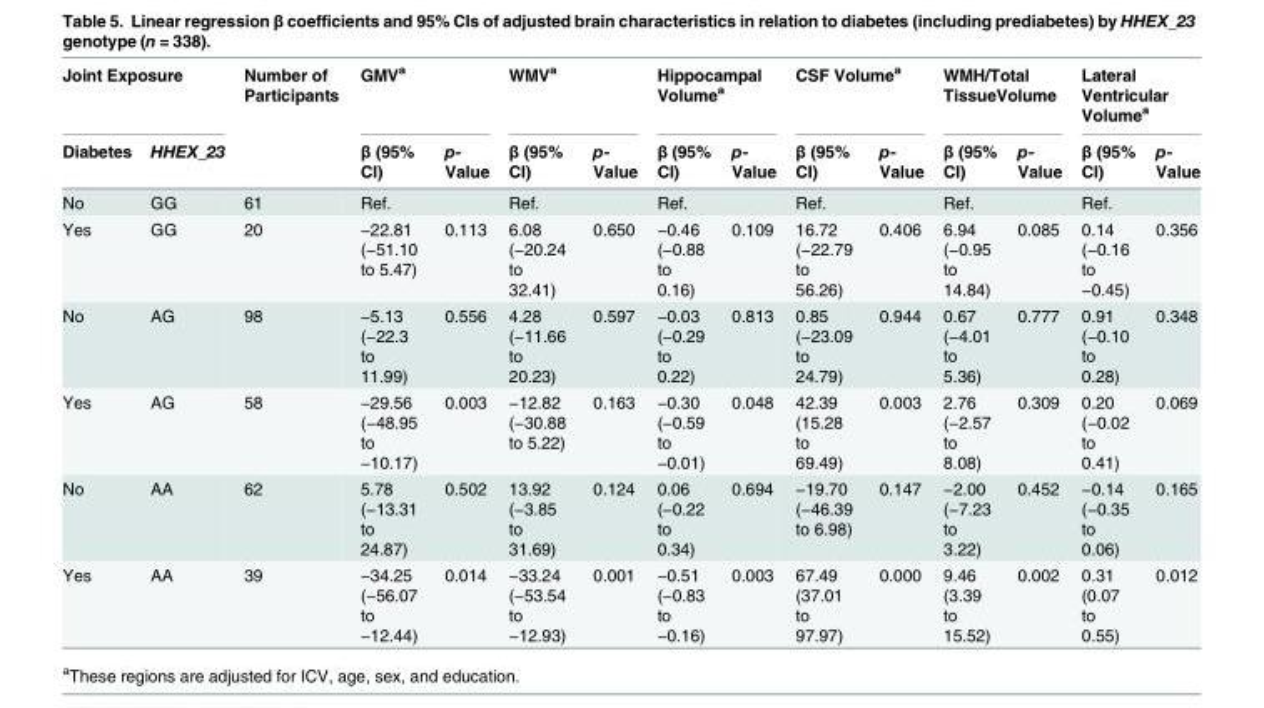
<table><thead><tr><td colspan="2">Joint Exposure</td><td rowspan="2">Number of Participants</td><td colspan="2">GMV<sup>a</sup></td><td colspan="2">WMV<sup>a</sup></td><td colspan="2">Hippocampal Volume<sup>a</sup></td><td colspan="2">CSF Volume<sup>a</sup></td><td colspan="2">WMH/Total TissueVolume</td><td colspan="2">Lateral Ventricular Volume<sup>a</sup></td></tr><tr><td>Diabetes</td><td>HHEX_23</td><td>β (95% CI)</td><td>p- Value</td><td>β (95% CI)</td><td>p- Value</td><td>β (95% CI)</td><td>p- Value</td><td>β (95% CI)</td><td>p- Value</td><td>β (95% CI)</td><td>p- Value</td><td>β (95% CI)</td><td>p- Value</td></tr></thead><tbody><tr><td>No</td><td>GG</td><td>61</td><td>Ref.</td><td></td><td>Ref.</td><td></td><td>Ref.</td><td></td><td>Ref.</td><td></td><td>Ref.</td><td></td><td>Ref.</td><td></td></tr><tr><td>Yes</td><td>GG</td><td>20</td><td>−22.81 (−51.10 to 5.47)</td><td>0.113</td><td>6.08 (−20.24 to 32.41)</td><td>0.650</td><td>−0.46 (−0.88 to 0.16)</td><td>0.109</td><td>16.72 (−22.79 to 56.26)</td><td>0.406</td><td>6.94 (−0.95 to 14.84)</td><td>0.085</td><td>0.14 (−0.16 to −0.45)</td><td>0.356</td></tr><tr><td>No</td><td>AG</td><td>98</td><td>−5.13 (−22.3 to 11.99)</td><td>0.556</td><td>4.28 (−11.66 to 20.23)</td><td>0.597</td><td>−0.03 (−0.29 to 0.22)</td><td>0.813</td><td>0.85 (−23.09 to 24.79)</td><td>0.944</td><td>0.67 (−4.01 to 5.36)</td><td>0.777</td><td>0.91 (−0.10 to 0.28)</td><td>0.348</td></tr><tr><td>Yes</td><td>AG</td><td>58</td><td>−29.56 (−48.95 to −10.17)</td><td>0.003</td><td>−12.82 (−30.88 to 5.22)</td><td>0.163</td><td>−0.30 (−0.59 to −0.01)</td><td>0.048</td><td>42.39 (15.28 to 69.49)</td><td>0.003</td><td>2.76 (−2.57 to 8.08)</td><td>0.309</td><td>0.20 (−0.02 to 0.41)</td><td>0.069</td></tr><tr><td>No</td><td>AA</td><td>62</td><td>5.78 (−13.31 to 24.87)</td><td>0.502</td><td>13.92 (−3.85 to 31.69)</td><td>0.124</td><td>0.06 (−0.22 to 0.34)</td><td>0.694</td><td>−19.70 (−46.39 to 6.98)</td><td>0.147</td><td>−2.00 (−7.23 to 3.22)</td><td>0.452</td><td>−0.14 (−0.35 to 0.06)</td><td>0.165</td></tr><tr><td>Yes</td><td>AA</td><td>39</td><td>−34.25 (−56.07 to −12.44)</td><td>0.014</td><td>−33.24 (−53.54 to −12.93)</td><td>0.001</td><td>−0.51 (−0.83 to −0.16)</td><td>0.003</td><td>67.49 (37.01 to 97.97)</td><td>0.000</td><td>9.46 (3.39 to 15.52)</td><td>0.002</td><td>0.31 (0.07 to 0.55)</td><td>0.012</td></tr></tbody></table>